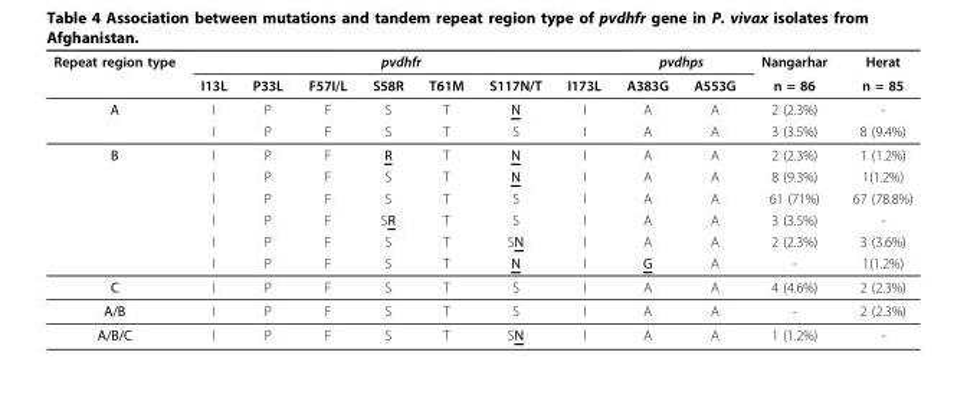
<table><thead><tr><td rowspan="2">Repeat region type</td><td colspan="7">pvdhfr</td><td colspan="2">pvdhps</td><td rowspan="2">Nangarhar n = 86</td><td rowspan="2">Herat n = 85</td></tr><tr><td>I13L</td><td>P33L</td><td>F57I/L</td><td>S58R</td><td>T61M</td><td>S117N/T</td><td>I173L</td><td>A383G</td><td>A553G</td></tr></thead><tbody><tr><td rowspan="2">A</td><td>I</td><td>P</td><td>F</td><td>S</td><td>T</td><td>N</td><td>I</td><td>A</td><td>A</td><td>2 (2.3%)</td><td>-</td></tr><tr><td>I</td><td>P</td><td>F</td><td>S</td><td>T</td><td>S</td><td>I</td><td>A</td><td>A</td><td>3 (3.5%)</td><td>8 (9.4%)</td></tr><tr><td rowspan="6">B</td><td>I</td><td>P</td><td>F</td><td>R</td><td>T</td><td>N</td><td>I</td><td>A</td><td>A</td><td>2 (2.3%)</td><td>1 (1.2%)</td></tr><tr><td>I</td><td>P</td><td>F</td><td>S</td><td>T</td><td>N</td><td>I</td><td>A</td><td>A</td><td>8 (9.3%)</td><td>1(1.2%)</td></tr><tr><td>I</td><td>P</td><td>F</td><td>S</td><td>T</td><td>S</td><td>I</td><td>A</td><td>A</td><td>61 (71%)</td><td>67 (78.8%)</td></tr><tr><td>I</td><td>P</td><td>F</td><td>SR</td><td>T</td><td>S</td><td>I</td><td>A</td><td>A</td><td>3 (3.5%)</td><td>-</td></tr><tr><td>I</td><td>P</td><td>F</td><td>S</td><td>T</td><td>SN</td><td>I</td><td>A</td><td>A</td><td>2 (2.3%)</td><td>3 (3.6%)</td></tr><tr><td>I</td><td>P</td><td>F</td><td>S</td><td>T</td><td>N</td><td>I</td><td>G</td><td>A</td><td>-</td><td>1(1.2%)</td></tr><tr><td>C</td><td>I</td><td>P</td><td>F</td><td>S</td><td>T</td><td>S</td><td>I</td><td>A</td><td>A</td><td>4 (4.6%)</td><td>2 (2.3%)</td></tr><tr><td>A/B</td><td>I</td><td>P</td><td>F</td><td>S</td><td>T</td><td>S</td><td>I</td><td>A</td><td>A</td><td>-</td><td>2 (2.3%)</td></tr><tr><td>A/B/C</td><td>I</td><td>P</td><td>F</td><td>S</td><td>T</td><td>SN</td><td>I</td><td>A</td><td>A</td><td>1 (1.2%)</td><td>-</td></tr></tbody></table>